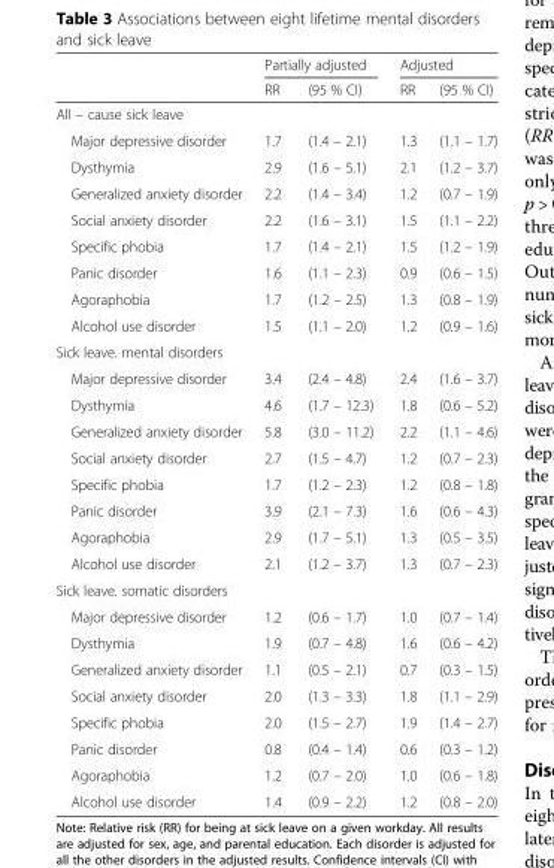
<table><thead><tr><td rowspan="2"></td><td colspan="2">Partially adjusted</td><td colspan="2">Adjusted</td></tr><tr><td>RR</td><td>(95 % CI)</td><td>RR</td><td>(95 % CI)</td></tr></thead><tbody><tr><td colspan="5">All – cause sick leave</td></tr><tr><td>Major depressive disorder</td><td>1.7</td><td>(1.4 – 2.1)</td><td>1.3</td><td>(1.1 – 1.7)</td></tr><tr><td>Dysthymia</td><td>2.9</td><td>(1.6 – 5.1)</td><td>2.1</td><td>(1.2 – 3.7)</td></tr><tr><td>Generalized anxiety disorder</td><td>2.2</td><td>(1.4 – 3.4)</td><td>1.2</td><td>(0.7 – 1.9)</td></tr><tr><td>Social anxiety disorder</td><td>2.2</td><td>(1.6 – 3.1)</td><td>1.5</td><td>(1.1 – 2.2)</td></tr><tr><td>Specific phobia</td><td>1.7</td><td>(1.4 – 2.1)</td><td>1.5</td><td>(1.2 – 1.9)</td></tr><tr><td>Panic disorder</td><td>1.6</td><td>(1.1 – 2.3)</td><td>0.9</td><td>(0.6 – 1.5)</td></tr><tr><td>Agoraphobia</td><td>1.7</td><td>(1.2 – 2.5)</td><td>1.3</td><td>(0.8 – 1.9)</td></tr><tr><td>Alcohol use disorder</td><td>1.5</td><td>(1.1 – 2.0)</td><td>1.2</td><td>(0.9 – 1.6)</td></tr><tr><td colspan="5">Sick leave. mental disorders</td></tr><tr><td>Major depressive disorder</td><td>3.4</td><td>(2.4 – 4.8)</td><td>2.4</td><td>(1.6 – 3.7)</td></tr><tr><td>Dysthymia</td><td>4.6</td><td>(1.7 – 12.3)</td><td>1.8</td><td>(0.6 – 5.2)</td></tr><tr><td>Generalized anxiety disorder</td><td>5.8</td><td>(3.0 – 11.2)</td><td>2.2</td><td>(1.1 – 4.6)</td></tr><tr><td>Social anxiety disorder</td><td>2.7</td><td>(1.5 – 4.7)</td><td>1.2</td><td>(0.7 – 2.3)</td></tr><tr><td>Specific phobia</td><td>1.7</td><td>(1.2 – 2.3)</td><td>1.2</td><td>(0.8 – 1.8)</td></tr><tr><td>Panic disorder</td><td>3.9</td><td>(2.1 – 7.3)</td><td>1.6</td><td>(0.6 – 4.3)</td></tr><tr><td>Agoraphobia</td><td>2.9</td><td>(1.7 – 5.1)</td><td>1.3</td><td>(0.5 – 3.5)</td></tr><tr><td>Alcohol use disorder</td><td>2.1</td><td>(1.2 – 3.7)</td><td>1.3</td><td>(0.7 – 2.3)</td></tr><tr><td colspan="5">Sick leave. somatic disorders</td></tr><tr><td>Major depressive disorder</td><td>1.2</td><td>(0.6 – 1.7)</td><td>1.0</td><td>(0.7 – 1.4)</td></tr><tr><td>Dysthymia</td><td>1.9</td><td>(0.7 – 4.8)</td><td>1.6</td><td>(0.6 – 4.2)</td></tr><tr><td>Generalized anxiety disorder</td><td>1.1</td><td>(0.5 – 2.1)</td><td>0.7</td><td>(0.3 – 1.5)</td></tr><tr><td>Social anxiety disorder</td><td>2.0</td><td>(1.3 – 3.3)</td><td>1.8</td><td>(1.1 – 2.9)</td></tr><tr><td>Specific phobia</td><td>2.0</td><td>(1.5 – 2.7)</td><td>1.9</td><td>(1.4 – 2.7)</td></tr><tr><td>Panic disorder</td><td>0.8</td><td>(0.4 – 1.4)</td><td>0.6</td><td>(0.3 – 1.2)</td></tr><tr><td>Agoraphobia</td><td>1.2</td><td>(0.7 – 2.0)</td><td>1.0</td><td>(0.6 – 1.8)</td></tr><tr><td>Alcohol use disorder</td><td>1.4</td><td>(0.9 – 2.2)</td><td>1.2</td><td>(0.8 – 2.0)</td></tr></tbody></table>